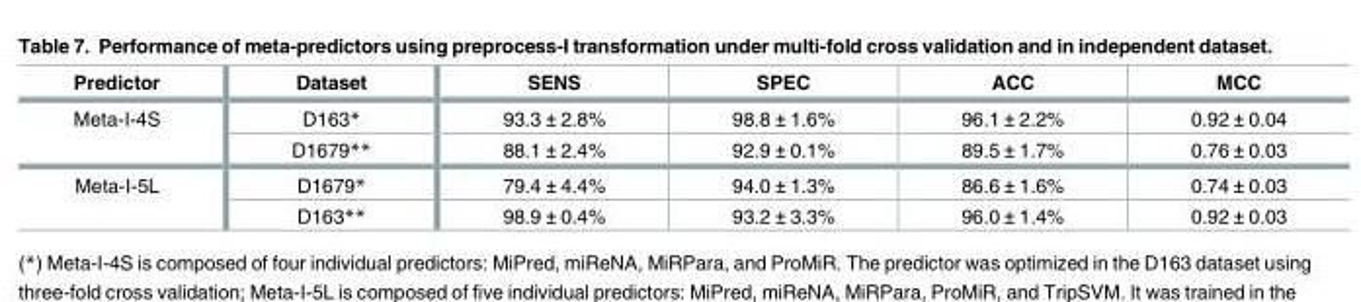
<table><thead><tr><td>Predictor</td><td>Dataset</td><td>SENS</td><td>SPEC</td><td>ACC</td><td>MCC</td></tr></thead><tbody><tr><td rowspan="2">Meta-I-4S</td><td>D163*</td><td>93.3 ± 2.8%</td><td>98.8 ± 1.6%</td><td>96.1 ± 2.2%</td><td>0.92 ± 0.04</td></tr><tr><td>D1679**</td><td>88.1 ± 2.4%</td><td>92.9 ± 0.1%</td><td>89.5 ± 1.7%</td><td>0.76 ± 0.03</td></tr><tr><td rowspan="2">Meta-I-5L</td><td>D1679*</td><td>79.4 ± 4.4%</td><td>94.0 ± 1.3%</td><td>86.6 ± 1.6%</td><td>0.74 ± 0.03</td></tr><tr><td>D163**</td><td>98.9 ± 0.4%</td><td>93.2 ± 3.3%</td><td>96.0 ± 1.4%</td><td>0.92 ± 0.03</td></tr></tbody></table>